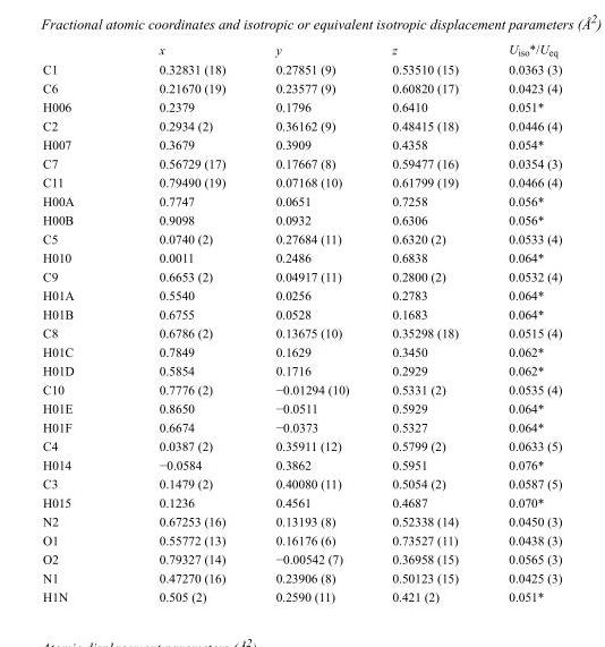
<table><thead><tr><td></td><td>x</td><td>y</td><td>z</td><td>U<sub>iso</sub>*/U<sub>eq</sub></td></tr></thead><tbody><tr><td>C1</td><td>0.32831 (18)</td><td>0.27851 (9)</td><td>0.53510 (15)</td><td>0.0363 (3)</td></tr><tr><td>C6</td><td>0.21670 (19)</td><td>0.23577 (9)</td><td>0.60820 (17)</td><td>0.0423 (4)</td></tr><tr><td>H006</td><td>0.2379</td><td>0.1796</td><td>0.6410</td><td>0.051*</td></tr><tr><td>C2</td><td>0.2934 (2)</td><td>0.36162 (9)</td><td>0.48415 (18)</td><td>0.0446 (4)</td></tr><tr><td>H007</td><td>0.3679</td><td>0.3909</td><td>0.4358</td><td>0.054*</td></tr><tr><td>C7</td><td>0.56729 (17)</td><td>0.17667 (8)</td><td>0.59477 (16)</td><td>0.0354 (3)</td></tr><tr><td>C11</td><td>0.79490 (19)</td><td>0.07168 (10)</td><td>0.61799 (19)</td><td>0.0466 (4)</td></tr><tr><td>H00A</td><td>0.7747</td><td>0.0651</td><td>0.7258</td><td>0.056*</td></tr><tr><td>H00B</td><td>0.9098</td><td>0.0932</td><td>0.6306</td><td>0.056*</td></tr><tr><td>C5</td><td>0.0740 (2)</td><td>0.27684 (11)</td><td>0.6320 (2)</td><td>0.0533 (4)</td></tr><tr><td>H010</td><td>0.0011</td><td>0.2486</td><td>0.6838</td><td>0.064*</td></tr><tr><td>C9</td><td>0.6653 (2)</td><td>0.04917 (11)</td><td>0.2800 (2)</td><td>0.0532 (4)</td></tr><tr><td>H01A</td><td>0.5540</td><td>0.0256</td><td>0.2783</td><td>0.064*</td></tr><tr><td>H01B</td><td>0.6755</td><td>0.0528</td><td>0.1683</td><td>0.064*</td></tr><tr><td>C8</td><td>0.6786 (2)</td><td>0.13675 (10)</td><td>0.35298 (18)</td><td>0.0515 (4)</td></tr><tr><td>H01C</td><td>0.7849</td><td>0.1629</td><td>0.3450</td><td>0.062*</td></tr><tr><td>H01D</td><td>0.5854</td><td>0.1716</td><td>0.2929</td><td>0.062*</td></tr><tr><td>C10</td><td>0.7776 (2)</td><td>−0.01294 (10)</td><td>0.5331 (2)</td><td>0.0535 (4)</td></tr><tr><td>H01E</td><td>0.8650</td><td>−0.0511</td><td>0.5929</td><td>0.064*</td></tr><tr><td>H01F</td><td>0.6674</td><td>−0.0373</td><td>0.5327</td><td>0.064*</td></tr><tr><td>C4</td><td>0.0387 (2)</td><td>0.35911 (12)</td><td>0.5799 (2)</td><td>0.0633 (5)</td></tr><tr><td>H014</td><td>−0.0584</td><td>0.3862</td><td>0.5951</td><td>0.076*</td></tr><tr><td>C3</td><td>0.1479 (2)</td><td>0.40080 (11)</td><td>0.5054 (2)</td><td>0.0587 (5)</td></tr><tr><td>H015</td><td>0.1236</td><td>0.4561</td><td>0.4687</td><td>0.070*</td></tr><tr><td>N2</td><td>0.67253 (16)</td><td>0.13193 (8)</td><td>0.52338 (14)</td><td>0.0450 (3)</td></tr><tr><td>O1</td><td>0.55772 (13)</td><td>0.16176 (6)</td><td>0.73527 (11)</td><td>0.0438 (3)</td></tr><tr><td>O2</td><td>0.79327 (14)</td><td>−0.00542 (7)</td><td>0.36958 (15)</td><td>0.0565 (3)</td></tr><tr><td>N1</td><td>0.47270 (16)</td><td>0.23906 (8)</td><td>0.50123 (15)</td><td>0.0425 (3)</td></tr><tr><td>H1N</td><td>0.505 (2)</td><td>0.2590 (11)</td><td>0.421 (2)</td><td>0.051*</td></tr></tbody></table>